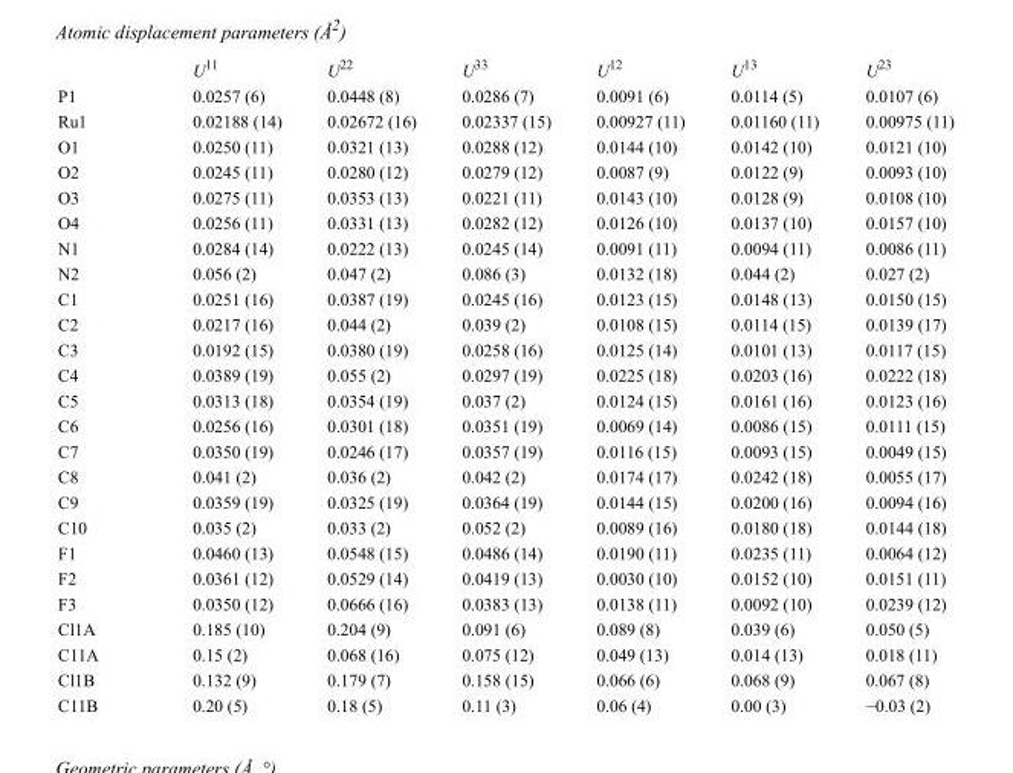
<table><thead><tr><td></td><td>U<sup>11</sup></td><td>U<sup>22</sup></td><td>U<sup>33</sup></td><td>U<sup>12</sup></td><td>U<sup>13</sup></td><td>U<sup>23</sup></td></tr></thead><tbody><tr><td>P1</td><td>0.0257 (6)</td><td>0.0448 (8)</td><td>0.0286 (7)</td><td>0.0091 (6)</td><td>0.0114 (5)</td><td>0.0107 (6)</td></tr><tr><td>Ru1</td><td>0.02188 (14)</td><td>0.02672 (16)</td><td>0.02337 (15)</td><td>0.00927 (11)</td><td>0.01160 (11)</td><td>0.00975 (11)</td></tr><tr><td>O1</td><td>0.0250 (11)</td><td>0.0321 (13)</td><td>0.0288 (12)</td><td>0.0144 (10)</td><td>0.0142 (10)</td><td>0.0121 (10)</td></tr><tr><td>O2</td><td>0.0245 (11)</td><td>0.0280 (12)</td><td>0.0279 (12)</td><td>0.0087 (9)</td><td>0.0122 (9)</td><td>0.0093 (10)</td></tr><tr><td>O3</td><td>0.0275 (11)</td><td>0.0353 (13)</td><td>0.0221 (11)</td><td>0.0143 (10)</td><td>0.0128 (9)</td><td>0.0108 (10)</td></tr><tr><td>O4</td><td>0.0256 (11)</td><td>0.0331 (13)</td><td>0.0282 (12)</td><td>0.0126 (10)</td><td>0.0137 (10)</td><td>0.0157 (10)</td></tr><tr><td>N1</td><td>0.0284 (14)</td><td>0.0222 (13)</td><td>0.0245 (14)</td><td>0.0091 (11)</td><td>0.0094 (11)</td><td>0.0086 (11)</td></tr><tr><td>N2</td><td>0.056 (2)</td><td>0.047 (2)</td><td>0.086 (3)</td><td>0.0132 (18)</td><td>0.044 (2)</td><td>0.027 (2)</td></tr><tr><td>C1</td><td>0.0251 (16)</td><td>0.0387 (19)</td><td>0.0245 (16)</td><td>0.0123 (15)</td><td>0.0148 (13)</td><td>0.0150 (15)</td></tr><tr><td>C2</td><td>0.0217 (16)</td><td>0.044 (2)</td><td>0.039 (2)</td><td>0.0108 (15)</td><td>0.0114 (15)</td><td>0.0139 (17)</td></tr><tr><td>C3</td><td>0.0192 (15)</td><td>0.0380 (19)</td><td>0.0258 (16)</td><td>0.0125 (14)</td><td>0.0101 (13)</td><td>0.0117 (15)</td></tr><tr><td>C4</td><td>0.0389 (19)</td><td>0.055 (2)</td><td>0.0297 (19)</td><td>0.0225 (18)</td><td>0.0203 (16)</td><td>0.0222 (18)</td></tr><tr><td>C5</td><td>0.0313 (18)</td><td>0.0354 (19)</td><td>0.037 (2)</td><td>0.0124 (15)</td><td>0.0161 (16)</td><td>0.0123 (16)</td></tr><tr><td>C6</td><td>0.0256 (16)</td><td>0.0301 (18)</td><td>0.0351 (19)</td><td>0.0069 (14)</td><td>0.0086 (15)</td><td>0.0111 (15)</td></tr><tr><td>C7</td><td>0.0350 (19)</td><td>0.0246 (17)</td><td>0.0357 (19)</td><td>0.0116 (15)</td><td>0.0093 (15)</td><td>0.0049 (15)</td></tr><tr><td>C8</td><td>0.041 (2)</td><td>0.036 (2)</td><td>0.042 (2)</td><td>0.0174 (17)</td><td>0.0242 (18)</td><td>0.0055 (17)</td></tr><tr><td>C9</td><td>0.0359 (19)</td><td>0.0325 (19)</td><td>0.0364 (19)</td><td>0.0144 (15)</td><td>0.0200 (16)</td><td>0.0094 (16)</td></tr><tr><td>C10</td><td>0.035 (2)</td><td>0.033 (2)</td><td>0.052 (2)</td><td>0.0089 (16)</td><td>0.0180 (18)</td><td>0.0144 (18)</td></tr><tr><td>F1</td><td>0.0460 (13)</td><td>0.0548 (15)</td><td>0.0486 (14)</td><td>0.0190 (11)</td><td>0.0235 (11)</td><td>0.0064 (12)</td></tr><tr><td>F2</td><td>0.0361 (12)</td><td>0.0529 (14)</td><td>0.0419 (13)</td><td>0.0030 (10)</td><td>0.0152 (10)</td><td>0.0151 (11)</td></tr><tr><td>F3</td><td>0.0350 (12)</td><td>0.0666 (16)</td><td>0.0383 (13)</td><td>0.0138 (11)</td><td>0.0092 (10)</td><td>0.0239 (12)</td></tr><tr><td>Cl1A</td><td>0.185 (10)</td><td>0.204 (9)</td><td>0.091 (6)</td><td>0.089 (8)</td><td>0.039 (6)</td><td>0.050 (5)</td></tr><tr><td>C11A</td><td>0.15 (2)</td><td>0.068 (16)</td><td>0.075 (12)</td><td>0.049 (13)</td><td>0.014 (13)</td><td>0.018 (11)</td></tr><tr><td>Cl1B</td><td>0.132 (9)</td><td>0.179 (7)</td><td>0.158 (15)</td><td>0.066 (6)</td><td>0.068 (9)</td><td>0.067 (8)</td></tr><tr><td>C11B</td><td>0.20 (5)</td><td>0.18 (5)</td><td>0.11 (3)</td><td>0.06 (4)</td><td>0.00 (3)</td><td>−0.03 (2)</td></tr></tbody></table>